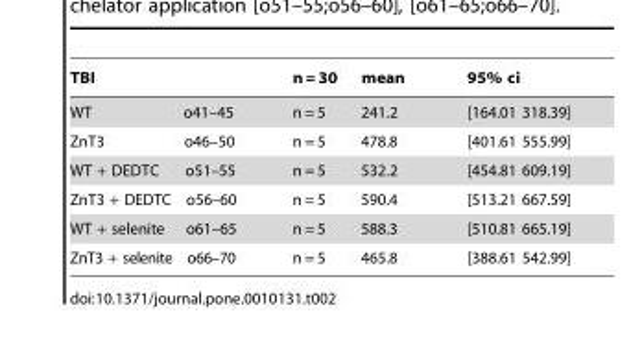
<table><thead><tr><td>TBI</td><td>n = 30 mean</td><td>95% ci</td></tr></thead><tbody><tr><td>WT o41–45</td><td>n = 5 241.2</td><td>[164.01 318.39]</td></tr><tr><td>ZnT3 o46–50</td><td>n = 5 478.8</td><td>[401.61 555.99]</td></tr><tr><td>WT + DEDTC o51–55</td><td>n = 5 532.2</td><td>[454.81 609.19]</td></tr><tr><td>ZnT3 + DEDTC o56–60</td><td>n = 5 590.4</td><td>[513.21 667.59]</td></tr><tr><td>WT + selenite o61–65</td><td>n = 5 588.3</td><td>[510.81 665.19]</td></tr><tr><td>ZnT3 + selenite o66–70</td><td>n = 5 465.8</td><td>[388.61 542.99]</td></tr></tbody></table>